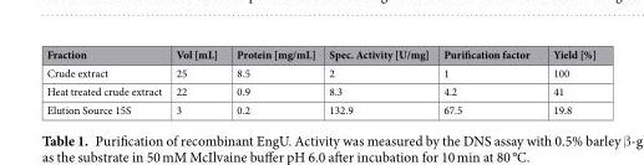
<table><thead><tr><td>Fraction</td><td>Vol [mL]</td><td>Protein [mg/mL]</td><td>Spec. Activity [U/mg]</td><td>Purification factor</td><td>Yield [%]</td></tr></thead><tbody><tr><td>Crude extract</td><td>25</td><td>8.5</td><td>2</td><td>1</td><td>100</td></tr><tr><td>Heat treated crude extract</td><td>22</td><td>0.9</td><td>8.3</td><td>4.2</td><td>41</td></tr><tr><td>Elution Source 15S</td><td>3</td><td>0.2</td><td>132.9</td><td>67.5</td><td>19.8</td></tr></tbody></table>